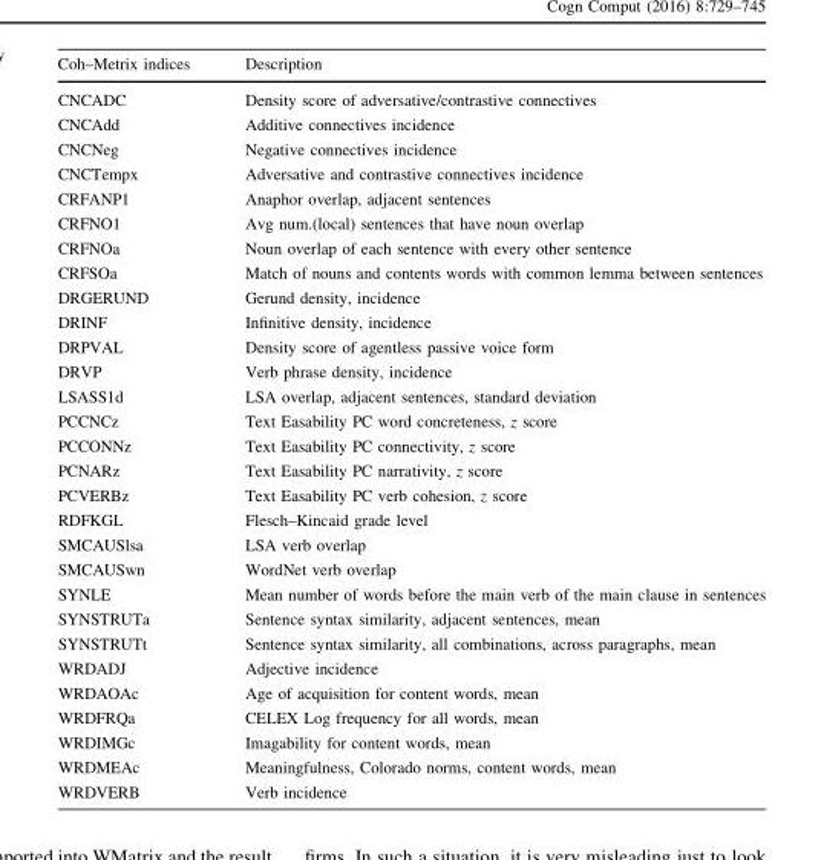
<table><thead><tr><td>Coh–Metrix indices</td><td>Description</td></tr></thead><tbody><tr><td>CNCADC</td><td>Density score of adversative/contrastive connectives</td></tr><tr><td>CNCAdd</td><td>Additive connectives incidence</td></tr><tr><td>CNCNeg</td><td>Negative connectives incidence</td></tr><tr><td>CNCTempx</td><td>Adversative and contrastive connectives incidence</td></tr><tr><td>CRFANP1</td><td>Anaphor overlap, adjacent sentences</td></tr><tr><td>CRFNO1</td><td>Avg num.(local) sentences that have noun overlap</td></tr><tr><td>CRFNOa</td><td>Noun overlap of each sentence with every other sentence</td></tr><tr><td>CRFSOa</td><td>Match of nouns and contents words with common lemma between sentences</td></tr><tr><td>DRGERUND</td><td>Gerund density, incidence</td></tr><tr><td>DRINF</td><td>Infinitive density, incidence</td></tr><tr><td>DRPVAL</td><td>Density score of agentless passive voice form</td></tr><tr><td>DRVP</td><td>Verb phrase density, incidence</td></tr><tr><td>LSASS1d</td><td>LSA overlap, adjacent sentences, standard deviation</td></tr><tr><td>PCCNCz</td><td>Text Easability PC word concreteness, z score</td></tr><tr><td>PCCONNz</td><td>Text Easability PC connectivity, z score</td></tr><tr><td>PCNARz</td><td>Text Easability PC narrativity, z score</td></tr><tr><td>PCVERBz</td><td>Text Easability PC verb cohesion, z score</td></tr><tr><td>RDFKGL</td><td>Flesch–Kincaid grade level</td></tr><tr><td>SMCAUSlsa</td><td>LSA verb overlap</td></tr><tr><td>SMCAUSwn</td><td>WordNet verb overlap</td></tr><tr><td>SYNLE</td><td>Mean number of words before the main verb of the main clause in sentences</td></tr><tr><td>SYNSTRUTa</td><td>Sentence syntax similarity, adjacent sentences, mean</td></tr><tr><td>SYNSTRUTt</td><td>Sentence syntax similarity, all combinations, across paragraphs, mean</td></tr><tr><td>WRDADJ</td><td>Adjective incidence</td></tr><tr><td>WRDAOAc</td><td>Age of acquisition for content words, mean</td></tr><tr><td>WRDFRQa</td><td>CELEX Log frequency for all words, mean</td></tr><tr><td>WRDIMGc</td><td>Imagability for content words, mean</td></tr><tr><td>WRDMEAc</td><td>Meaningfulness, Colorado norms, content words, mean</td></tr><tr><td>WRDVERB</td><td>Verb incidence</td></tr></tbody></table>